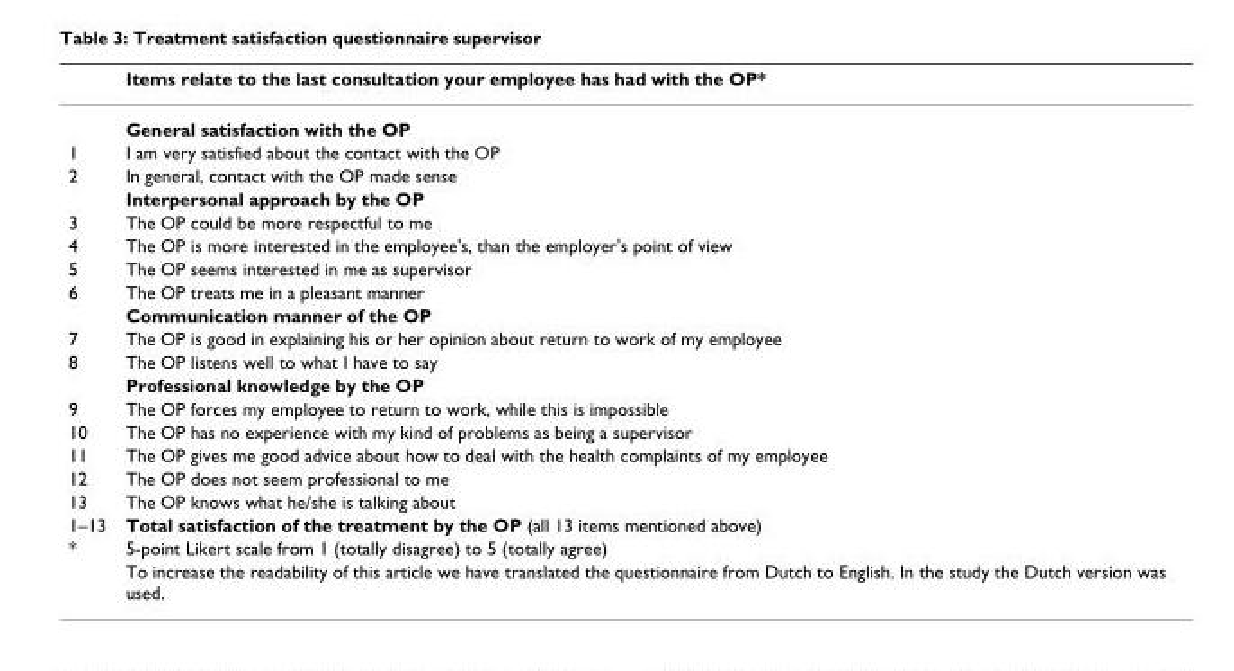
<table><thead><tr><td></td><td>Items relate to the last consultation your employee has had with the OP*</td></tr></thead><tbody><tr><td></td><td>General satisfaction with the OP</td></tr><tr><td>1</td><td>I am very satisfied about the contact with the OP</td></tr><tr><td rowspan="2">2</td><td>In general, contact with the OP made sense</td></tr><tr><td>Interpersonal approach by the OP</td></tr><tr><td>3</td><td>The OP could be more respectful to me</td></tr><tr><td>4</td><td>The OP is more interested in the employee&#x27;s, than the employer&#x27;s point of view</td></tr><tr><td>5</td><td>The OP seems interested in me as supervisor</td></tr><tr><td rowspan="2">6</td><td>The OP treats me in a pleasant manner</td></tr><tr><td>Communication manner of the OP</td></tr><tr><td>7</td><td>The OP is good in explaining his or her opinion about return to work of my employee</td></tr><tr><td rowspan="2">8</td><td>The OP listens well to what I have to say</td></tr><tr><td>Professional knowledge by the OP</td></tr><tr><td>9</td><td>The OP forces my employee to return to work, while this is impossible</td></tr><tr><td>10</td><td>The OP has no experience with my kind of problems as being a supervisor</td></tr><tr><td>11</td><td>The OP gives me good advice about how to deal with the health complaints of my employee</td></tr><tr><td>12</td><td>The OP does not seem professional to me</td></tr><tr><td>13</td><td>The OP knows what he/she is talking about</td></tr><tr><td>1–13</td><td>Total satisfaction of the treatment by the OP (all 13 items mentioned above)</td></tr><tr><td rowspan="2">*</td><td>5-point Likert scale from 1 (totally disagree) to 5 (totally agree)</td></tr><tr><td>To increase the readability of this article we have translated the questionnaire from Dutch to English. In the study the Dutch version was used.</td></tr></tbody></table>